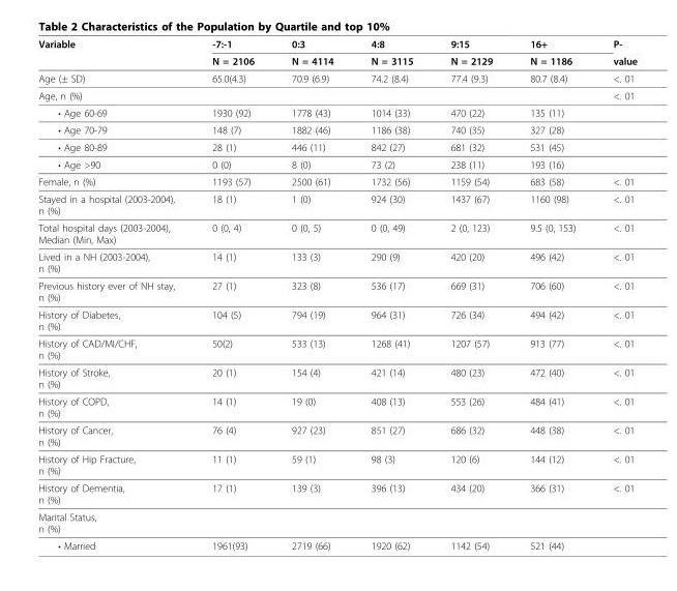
<table><thead><tr><td rowspan="2">Variable</td><td rowspan="2">-7:-1 N = 2106</td><td rowspan="2">0:3 N = 4114</td><td rowspan="2">4:8 N = 3115</td><td rowspan="2">9:15 N = 2129</td><td rowspan="2">16+ N = 1186</td><td rowspan="2">P- value</td></tr><tr></tr></thead><tbody><tr><td>Age (± SD)</td><td>65.0(4.3)</td><td>70.9 (6.9)</td><td>74.2 (8.4)</td><td>77.4 (9.3)</td><td>80.7 (8.4)</td><td>&lt;. 01</td></tr><tr><td>Age, n (%)</td><td></td><td></td><td></td><td></td><td></td><td>&lt;. 01</td></tr><tr><td>• Age 60-69</td><td>1930 (92)</td><td>1778 (43)</td><td>1014 (33)</td><td>470 (22)</td><td>135 (11)</td><td></td></tr><tr><td>• Age 70-79</td><td>148 (7)</td><td>1882 (46)</td><td>1186 (38)</td><td>740 (35)</td><td>327 (28)</td><td></td></tr><tr><td>• Age 80-89</td><td>28 (1)</td><td>446 (11)</td><td>842 (27)</td><td>681 (32)</td><td>531 (45)</td><td></td></tr><tr><td>• Age &gt;90</td><td>0 (0)</td><td>8 (0)</td><td>73 (2)</td><td>238 (11)</td><td>193 (16)</td><td></td></tr><tr><td>Female, n (%)</td><td>1193 (57)</td><td>2500 (61)</td><td>1732 (56)</td><td>1159 (54)</td><td>683 (58)</td><td>&lt;. 01</td></tr><tr><td>Stayed in a hospital (2003-2004), n (%)</td><td>18 (1)</td><td>1 (0)</td><td>924 (30)</td><td>1437 (67)</td><td>1160 (98)</td><td>&lt;. 01</td></tr><tr><td>Total hospital days (2003-2004), Median (Min, Max)</td><td>0 (0, 4)</td><td>0 (0, 5)</td><td>0 (0, 49)</td><td>2 (0, 123)</td><td>9.5 (0, 153)</td><td>&lt;. 01</td></tr><tr><td>Lived in a NH (2003-2004), n (%)</td><td>14 (1)</td><td>133 (3)</td><td>290 (9)</td><td>420 (20)</td><td>496 (42)</td><td>&lt;. 01</td></tr><tr><td>Previous history ever of NH stay, n (%)</td><td>27 (1)</td><td>323 (8)</td><td>536 (17)</td><td>669 (31)</td><td>706 (60)</td><td>&lt;. 01</td></tr><tr><td>History of Diabetes, n (%)</td><td>104 (5)</td><td>794 (19)</td><td>964 (31)</td><td>726 (34)</td><td>494 (42)</td><td>&lt;. 01</td></tr><tr><td>History of CAD/MI/CHF, n (%)</td><td>50(2)</td><td>533 (13)</td><td>1268 (41)</td><td>1207 (57)</td><td>913 (77)</td><td>&lt;. 01</td></tr><tr><td>History of Stroke, n (%)</td><td>20 (1)</td><td>154 (4)</td><td>421 (14)</td><td>480 (23)</td><td>472 (40)</td><td>&lt;. 01</td></tr><tr><td>History of COPD, n (%)</td><td>14 (1)</td><td>19 (0)</td><td>408 (13)</td><td>553 (26)</td><td>484 (41)</td><td>&lt;. 01</td></tr><tr><td>History of Cancer, n (%)</td><td>76 (4)</td><td>927 (23)</td><td>851 (27)</td><td>686 (32)</td><td>448 (38)</td><td>&lt;. 01</td></tr><tr><td>History of Hip Fracture, n (%)</td><td>11 (1)</td><td>59 (1)</td><td>98 (3)</td><td>120 (6)</td><td>144 (12)</td><td>&lt;. 01</td></tr><tr><td>History of Dementia, n (%)</td><td>17 (1)</td><td>139 (3)</td><td>396 (13)</td><td>434 (20)</td><td>366 (31)</td><td>&lt;. 01</td></tr><tr><td colspan="7">Marital Status, n (%)</td></tr><tr><td>• Married</td><td>1961(93)</td><td>2719 (66)</td><td>1920 (62)</td><td>1142 (54)</td><td>521 (44)</td><td></td></tr></tbody></table>